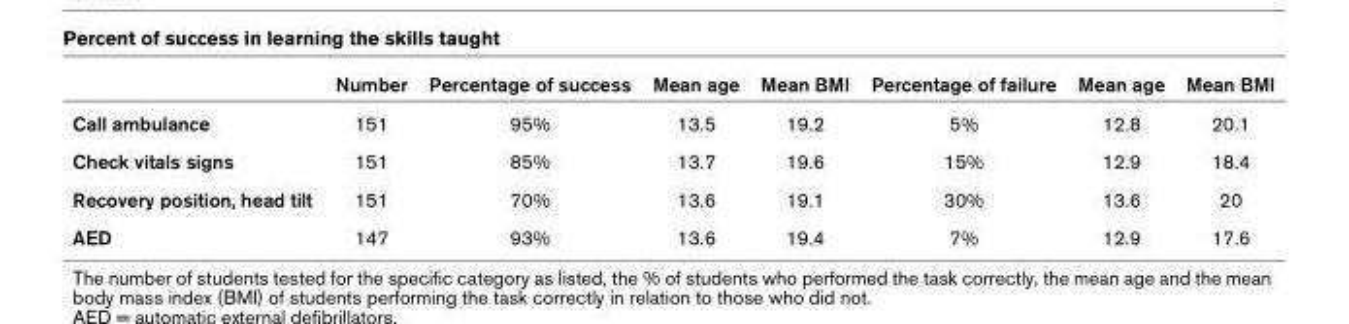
<table><thead><tr><td></td><td>Number</td><td>Percentage of success</td><td>Mean age</td><td>Mean BMI</td><td>Percentage of failure</td><td>Mean age</td><td>Mean BMI</td></tr></thead><tbody><tr><td>Call ambulance</td><td>151</td><td>95%</td><td>13.5</td><td>19.2</td><td>5%</td><td>12.8</td><td>20.1</td></tr><tr><td>Check vitals signs</td><td>151</td><td>85%</td><td>13.7</td><td>19.6</td><td>15%</td><td>12.9</td><td>18.4</td></tr><tr><td>Recovery position, head tilt</td><td>151</td><td>70%</td><td>13.6</td><td>19.1</td><td>30%</td><td>13.6</td><td>20</td></tr><tr><td>AED</td><td>147</td><td>93%</td><td>13.6</td><td>19.4</td><td>7%</td><td>12.9</td><td>17.6</td></tr></tbody></table>